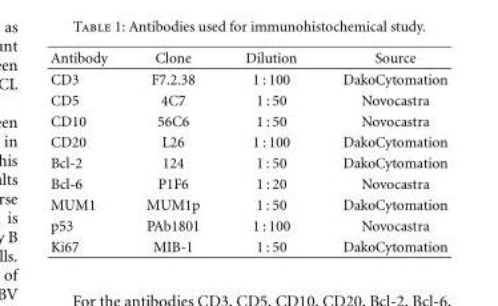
<table><thead><tr><td>Antibody</td><td>Clone</td><td>Dilution</td><td>Source</td></tr></thead><tbody><tr><td>CD3</td><td>F7.2.38</td><td>1 : 100</td><td>DakoCytomation</td></tr><tr><td>CD5</td><td>4C7</td><td>1 : 50</td><td>Novocastra</td></tr><tr><td>CD10</td><td>56C6</td><td>1 : 50</td><td>Novocastra</td></tr><tr><td>CD20</td><td>L26</td><td>1 : 100</td><td>DakoCytomation</td></tr><tr><td>Bcl-2</td><td>124</td><td>1 : 50</td><td>DakoCytomation</td></tr><tr><td>Bcl-6</td><td>P1F6</td><td>1 : 20</td><td>Novocastra</td></tr><tr><td>MUM1</td><td>MUM1p</td><td>1 : 50</td><td>DakoCytomation</td></tr><tr><td>p53</td><td>PAb1801</td><td>1 : 100</td><td>Novocastra</td></tr><tr><td>Ki67</td><td>MIB-1</td><td>1 : 50</td><td>DakoCytomation</td></tr></tbody></table>